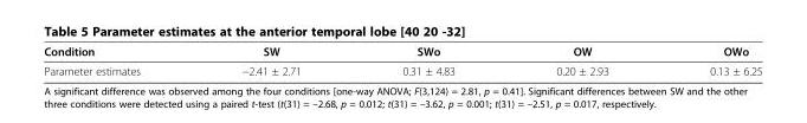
<table><thead><tr><td>Condition</td><td>SW</td><td>SWo</td><td>OW</td><td>OWo</td></tr></thead><tbody><tr><td>Parameter estimates</td><td>−2.41 ± 2.71</td><td>0.31 ± 4.83</td><td>0.20 ± 2.93</td><td>0.13 ± 6.25</td></tr></tbody></table>